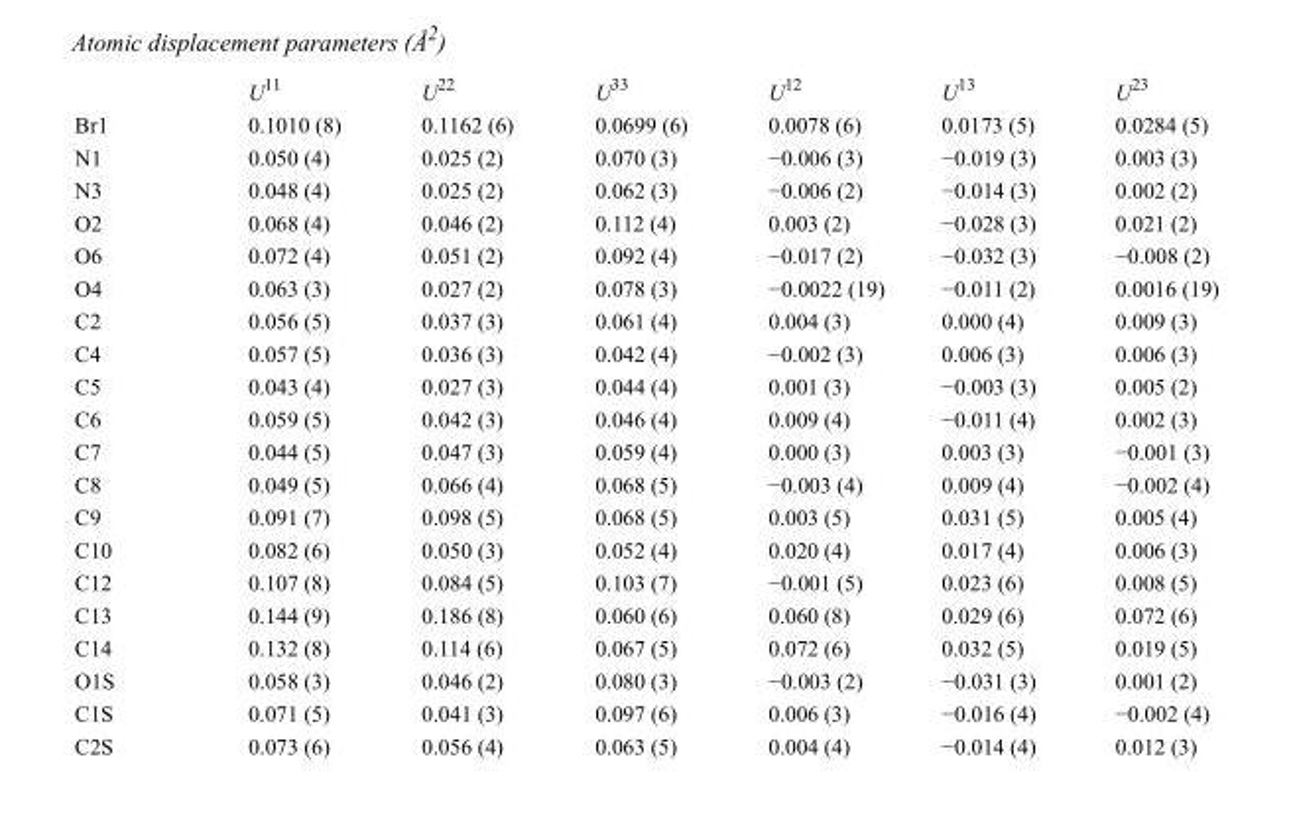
<table><thead><tr><td></td><td>U<sup>11</sup></td><td>U<sup>22</sup></td><td>U<sup>33</sup></td><td>U<sup>12</sup></td><td>U<sup>13</sup></td><td>U<sup>23</sup></td></tr></thead><tbody><tr><td>Br1</td><td>0.1010 (8)</td><td>0.1162 (6)</td><td>0.0699 (6)</td><td>0.0078 (6)</td><td>0.0173 (5)</td><td>0.0284 (5)</td></tr><tr><td>N1</td><td>0.050 (4)</td><td>0.025 (2)</td><td>0.070 (3)</td><td>−0.006 (3)</td><td>−0.019 (3)</td><td>0.003 (3)</td></tr><tr><td>N3</td><td>0.048 (4)</td><td>0.025 (2)</td><td>0.062 (3)</td><td>−0.006 (2)</td><td>−0.014 (3)</td><td>0.002 (2)</td></tr><tr><td>O2</td><td>0.068 (4)</td><td>0.046 (2)</td><td>0.112 (4)</td><td>0.003 (2)</td><td>−0.028 (3)</td><td>0.021 (2)</td></tr><tr><td>O6</td><td>0.072 (4)</td><td>0.051 (2)</td><td>0.092 (4)</td><td>−0.017 (2)</td><td>−0.032 (3)</td><td>−0.008 (2)</td></tr><tr><td>O4</td><td>0.063 (3)</td><td>0.027 (2)</td><td>0.078 (3)</td><td>−0.0022 (19)</td><td>−0.011 (2)</td><td>0.0016 (19)</td></tr><tr><td>C2</td><td>0.056 (5)</td><td>0.037 (3)</td><td>0.061 (4)</td><td>0.004 (3)</td><td>0.000 (4)</td><td>0.009 (3)</td></tr><tr><td>C4</td><td>0.057 (5)</td><td>0.036 (3)</td><td>0.042 (4)</td><td>−0.002 (3)</td><td>0.006 (3)</td><td>0.006 (3)</td></tr><tr><td>C5</td><td>0.043 (4)</td><td>0.027 (3)</td><td>0.044 (4)</td><td>0.001 (3)</td><td>−0.003 (3)</td><td>0.005 (2)</td></tr><tr><td>C6</td><td>0.059 (5)</td><td>0.042 (3)</td><td>0.046 (4)</td><td>0.009 (4)</td><td>−0.011 (4)</td><td>0.002 (3)</td></tr><tr><td>C7</td><td>0.044 (5)</td><td>0.047 (3)</td><td>0.059 (4)</td><td>0.000 (3)</td><td>0.003 (3)</td><td>−0.001 (3)</td></tr><tr><td>C8</td><td>0.049 (5)</td><td>0.066 (4)</td><td>0.068 (5)</td><td>−0.003 (4)</td><td>0.009 (4)</td><td>−0.002 (4)</td></tr><tr><td>C9</td><td>0.091 (7)</td><td>0.098 (5)</td><td>0.068 (5)</td><td>0.003 (5)</td><td>0.031 (5)</td><td>0.005 (4)</td></tr><tr><td>C10</td><td>0.082 (6)</td><td>0.050 (3)</td><td>0.052 (4)</td><td>0.020 (4)</td><td>0.017 (4)</td><td>0.006 (3)</td></tr><tr><td>C12</td><td>0.107 (8)</td><td>0.084 (5)</td><td>0.103 (7)</td><td>−0.001 (5)</td><td>0.023 (6)</td><td>0.008 (5)</td></tr><tr><td>C13</td><td>0.144 (9)</td><td>0.186 (8)</td><td>0.060 (6)</td><td>0.060 (8)</td><td>0.029 (6)</td><td>0.072 (6)</td></tr><tr><td>C14</td><td>0.132 (8)</td><td>0.114 (6)</td><td>0.067 (5)</td><td>0.072 (6)</td><td>0.032 (5)</td><td>0.019 (5)</td></tr><tr><td>O1S</td><td>0.058 (3)</td><td>0.046 (2)</td><td>0.080 (3)</td><td>−0.003 (2)</td><td>−0.031 (3)</td><td>0.001 (2)</td></tr><tr><td>C1S</td><td>0.071 (5)</td><td>0.041 (3)</td><td>0.097 (6)</td><td>0.006 (3)</td><td>−0.016 (4)</td><td>−0.002 (4)</td></tr><tr><td>C2S</td><td>0.073 (6)</td><td>0.056 (4)</td><td>0.063 (5)</td><td>0.004 (4)</td><td>−0.014 (4)</td><td>0.012 (3)</td></tr></tbody></table>